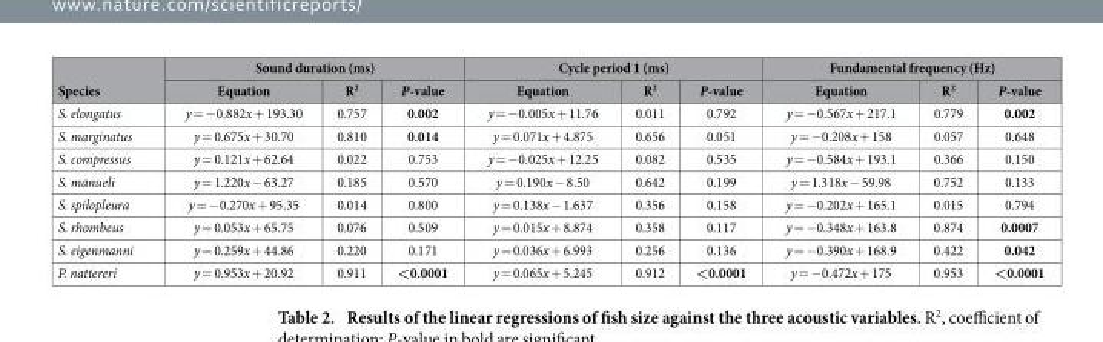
<table><thead><tr><td rowspan="2">Species</td><td colspan="3">Sound duration (ms)</td><td colspan="3">Cycle period 1 (ms)</td><td colspan="3">Fundamental frequency (Hz)</td></tr><tr><td>Equation</td><td>R<sup>2</sup></td><td>P-value</td><td>Equation</td><td>R<sup>2</sup></td><td>P-value</td><td>Equation</td><td>R<sup>2</sup></td><td>P-value</td></tr></thead><tbody><tr><td>S. elongatus</td><td>y = − 0.882x + 193.30</td><td>0.757</td><td>0.002</td><td>y = − 0.005x + 11.76</td><td>0.011</td><td>0.792</td><td>y = − 0.567x + 217.1</td><td>0.779</td><td>0.002</td></tr><tr><td>S. marginatus</td><td>y = 0.675x + 30.70</td><td>0.810</td><td>0.014</td><td>y = 0.071x + 4.875</td><td>0.656</td><td>0.051</td><td>y = − 0.208x + 158</td><td>0.057</td><td>0.648</td></tr><tr><td>S. compressus</td><td>y = 0.121x + 62.64</td><td>0.022</td><td>0.753</td><td>y = − 0.025x + 12.25</td><td>0.082</td><td>0.535</td><td>y = − 0.584x + 193.1</td><td>0.366</td><td>0.150</td></tr><tr><td>S. manueli</td><td>y = 1.220x − 63.27</td><td>0.185</td><td>0.570</td><td>y = 0.190x − 8.50</td><td>0.642</td><td>0.199</td><td>y = 1.318x − 59.98</td><td>0.752</td><td>0.133</td></tr><tr><td>S. spilopleura</td><td>y = − 0.270x + 95.35</td><td>0.014</td><td>0.800</td><td>y = 0.138x − 1.637</td><td>0.356</td><td>0.158</td><td>y = − 0.202x + 165.1</td><td>0.015</td><td>0.794</td></tr><tr><td>S. rhombeus</td><td>y = 0.053x + 65.75</td><td>0.076</td><td>0.509</td><td>y = 0.015x + 8.874</td><td>0.358</td><td>0.117</td><td>y = − 0.348x + 163.8</td><td>0.874</td><td>0.0007</td></tr><tr><td>S. eigenmanni</td><td>y = 0.259x + 44.86</td><td>0.220</td><td>0.171</td><td>y = 0.036x + 6.993</td><td>0.256</td><td>0.136</td><td>y = − 0.390x + 168.9</td><td>0.422</td><td>0.042</td></tr><tr><td>P. nattereri</td><td>y = 0.953x + 20.92</td><td>0.911</td><td>&lt;0.0001</td><td>y = 0.065x + 5.245</td><td>0.912</td><td>&lt;0.0001</td><td>y = − 0.472x + 175</td><td>0.953</td><td>&lt;0.0001</td></tr></tbody></table>